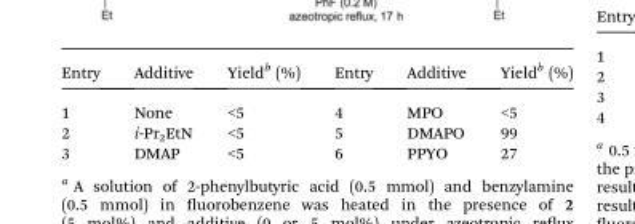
<table><thead><tr><td>Entry</td><td>Additive</td><td>Yield<sup>b</sup> (%)</td><td>Entry</td><td>Additive</td><td>Yield<sup>b</sup> (%)</td></tr></thead><tbody><tr><td>1</td><td>None</td><td>&lt;5</td><td>4</td><td>MPO</td><td>&lt;5</td></tr><tr><td>2</td><td>i-Pr<sub>2</sub>EtN</td><td>&lt;5</td><td>5</td><td>DMAPO</td><td>99</td></tr><tr><td>3</td><td>DMAP</td><td>&lt;5</td><td>6</td><td>PPYO</td><td>27</td></tr></tbody></table>